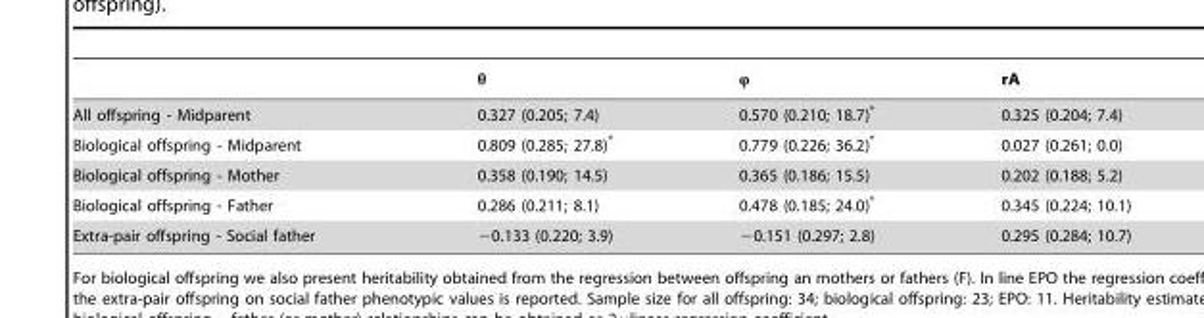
<table><thead><tr><td></td><td>θ</td><td>φ</td><td>rA</td></tr></thead><tbody><tr><td>All offspring - Midparent</td><td>0.327 (0.205; 7.4)</td><td>0.570 (0.210; 18.7)*</td><td>0.325 (0.204; 7.4)</td></tr><tr><td>Biological offspring - Midparent</td><td>0.809 (0.285; 27.8)*</td><td>0.779 (0.226; 36.2)*</td><td>0.027 (0.261; 0.0)</td></tr><tr><td>Biological offspring - Mother</td><td>0.358 (0.190; 14.5)</td><td>0.365 (0.186; 15.5)</td><td>0.202 (0.188; 5.2)</td></tr><tr><td>Biological offspring - Father</td><td>0.286 (0.211; 8.1)</td><td>0.478 (0.185; 24.0)*</td><td>0.345 (0.224; 10.1)</td></tr><tr><td>Extra-pair offspring - Social father</td><td>−0.133 (0.220; 3.9)</td><td>−0.151 (0.297; 2.8)</td><td>0.295 (0.284; 10.7)</td></tr></tbody></table>